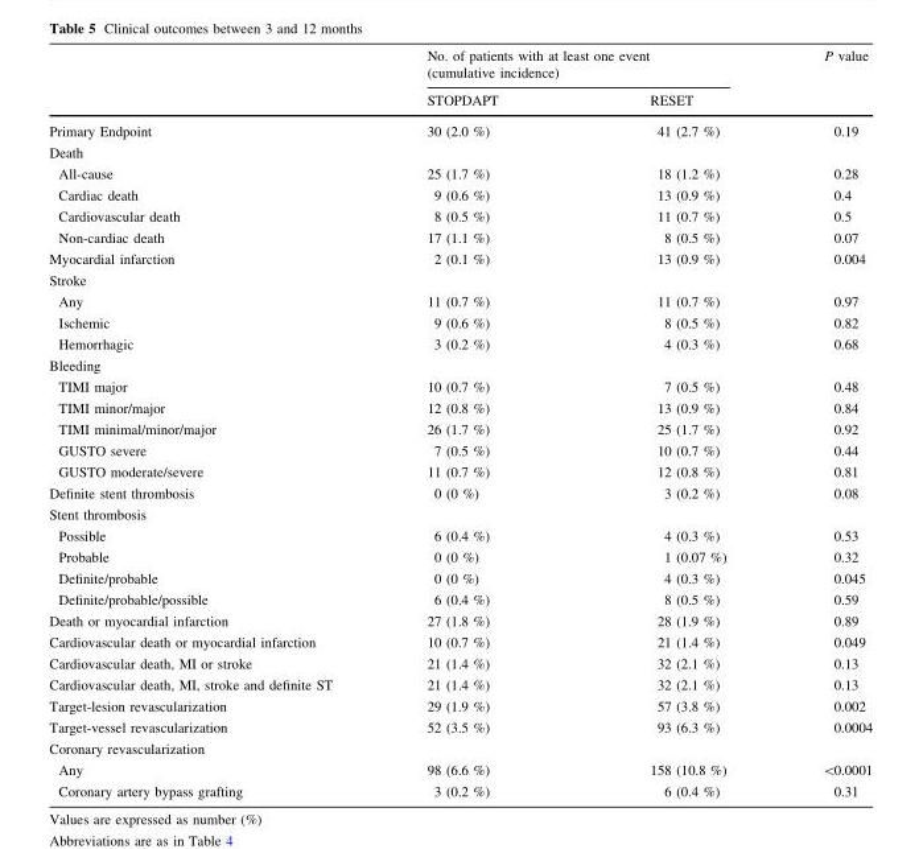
<table><thead><tr><td rowspan="2"></td><td colspan="2">No. of patients with at least one event (cumulative incidence)</td><td rowspan="2">P value</td></tr><tr><td>STOPDAPT</td><td>RESET</td></tr></thead><tbody><tr><td>Primary Endpoint</td><td>30 (2.0 %)</td><td>41 (2.7 %)</td><td>0.19</td></tr><tr><td colspan="4">Death</td></tr><tr><td>All-cause</td><td>25 (1.7 %)</td><td>18 (1.2 %)</td><td>0.28</td></tr><tr><td>Cardiac death</td><td>9 (0.6 %)</td><td>13 (0.9 %)</td><td>0.4</td></tr><tr><td>Cardiovascular death</td><td>8 (0.5 %)</td><td>11 (0.7 %)</td><td>0.5</td></tr><tr><td>Non-cardiac death</td><td>17 (1.1 %)</td><td>8 (0.5 %)</td><td>0.07</td></tr><tr><td>Myocardial infarction</td><td>2 (0.1 %)</td><td>13 (0.9 %)</td><td>0.004</td></tr><tr><td colspan="4">Stroke</td></tr><tr><td>Any</td><td>11 (0.7 %)</td><td>11 (0.7 %)</td><td>0.97</td></tr><tr><td>Ischemic</td><td>9 (0.6 %)</td><td>8 (0.5 %)</td><td>0.82</td></tr><tr><td>Hemorrhagic</td><td>3 (0.2 %)</td><td>4 (0.3 %)</td><td>0.68</td></tr><tr><td colspan="4">Bleeding</td></tr><tr><td>TIMI major</td><td>10 (0.7 %)</td><td>7 (0.5 %)</td><td>0.48</td></tr><tr><td>TIMI minor/major</td><td>12 (0.8 %)</td><td>13 (0.9 %)</td><td>0.84</td></tr><tr><td>TIMI minimal/minor/major</td><td>26 (1.7 %)</td><td>25 (1.7 %)</td><td>0.92</td></tr><tr><td>GUSTO severe</td><td>7 (0.5 %)</td><td>10 (0.7 %)</td><td>0.44</td></tr><tr><td>GUSTO moderate/severe</td><td>11 (0.7 %)</td><td>12 (0.8 %)</td><td>0.81</td></tr><tr><td>Definite stent thrombosis</td><td>0 (0 %)</td><td>3 (0.2 %)</td><td>0.08</td></tr><tr><td colspan="4">Stent thrombosis</td></tr><tr><td>Possible</td><td>6 (0.4 %)</td><td>4 (0.3 %)</td><td>0.53</td></tr><tr><td>Probable</td><td>0 (0 %)</td><td>1 (0.07 %)</td><td>0.32</td></tr><tr><td>Definite/probable</td><td>0 (0 %)</td><td>4 (0.3 %)</td><td>0.045</td></tr><tr><td>Definite/probable/possible</td><td>6 (0.4 %)</td><td>8 (0.5 %)</td><td>0.59</td></tr><tr><td>Death or myocardial infarction</td><td>27 (1.8 %)</td><td>28 (1.9 %)</td><td>0.89</td></tr><tr><td>Cardiovascular death or myocardial infarction</td><td>10 (0.7 %)</td><td>21 (1.4 %)</td><td>0.049</td></tr><tr><td>Cardiovascular death, MI or stroke</td><td>21 (1.4 %)</td><td>32 (2.1 %)</td><td>0.13</td></tr><tr><td>Cardiovascular death, MI, stroke and definite ST</td><td>21 (1.4 %)</td><td>32 (2.1 %)</td><td>0.13</td></tr><tr><td>Target-lesion revascularization</td><td>29 (1.9 %)</td><td>57 (3.8 %)</td><td>0.002</td></tr><tr><td>Target-vessel revascularization</td><td>52 (3.5 %)</td><td>93 (6.3 %)</td><td>0.0004</td></tr><tr><td colspan="4">Coronary revascularization</td></tr><tr><td>Any</td><td>98 (6.6 %)</td><td>158 (10.8 %)</td><td>&lt;0.0001</td></tr><tr><td>Coronary artery bypass grafting</td><td>3 (0.2 %)</td><td>6 (0.4 %)</td><td>0.31</td></tr></tbody></table>